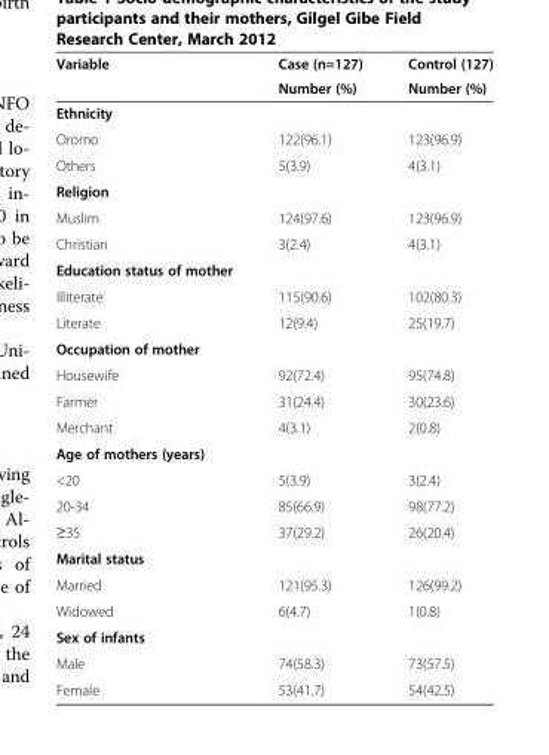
<table><thead><tr><td rowspan="2">Variable</td><td rowspan="2">Case (n=127) Number (%)</td><td rowspan="2">Control (127) Number (%)</td></tr><tr></tr></thead><tbody><tr><td colspan="3">Ethnicity</td></tr><tr><td>Oromo</td><td>122(96.1)</td><td>123(96.9)</td></tr><tr><td>Others</td><td>5(3.9)</td><td>4(3.1)</td></tr><tr><td colspan="3">Religion</td></tr><tr><td>Muslim</td><td>124(97.6)</td><td>123(96.9)</td></tr><tr><td>Christian</td><td>3(2.4)</td><td>4(3.1)</td></tr><tr><td colspan="3">Education status of mother</td></tr><tr><td>Illiterate</td><td>115(90.6)</td><td>102(80.3)</td></tr><tr><td>Literate</td><td>12(9.4)</td><td>25(19.7)</td></tr><tr><td colspan="3">Occupation of mother</td></tr><tr><td>Housewife</td><td>92(72.4)</td><td>95(74.8)</td></tr><tr><td>Farmer</td><td>31(24.4)</td><td>30(23.6)</td></tr><tr><td>Merchant</td><td>4(3.1)</td><td>2(0.8)</td></tr><tr><td colspan="3">Age of mothers (years)</td></tr><tr><td>&lt;20</td><td>5(3.9)</td><td>3(2.4)</td></tr><tr><td>20-34</td><td>85(66.9)</td><td>98(77.2)</td></tr><tr><td>≥35</td><td>37(29.2)</td><td>26(20.4)</td></tr><tr><td colspan="3">Marital status</td></tr><tr><td>Married</td><td>121(95.3)</td><td>126(99.2)</td></tr><tr><td>Widowed</td><td>6(4.7)</td><td>1(0.8)</td></tr><tr><td colspan="3">Sex of infants</td></tr><tr><td>Male</td><td>74(58.3)</td><td>73(57.5)</td></tr><tr><td>Female</td><td>53(41.7)</td><td>54(42.5)</td></tr></tbody></table>